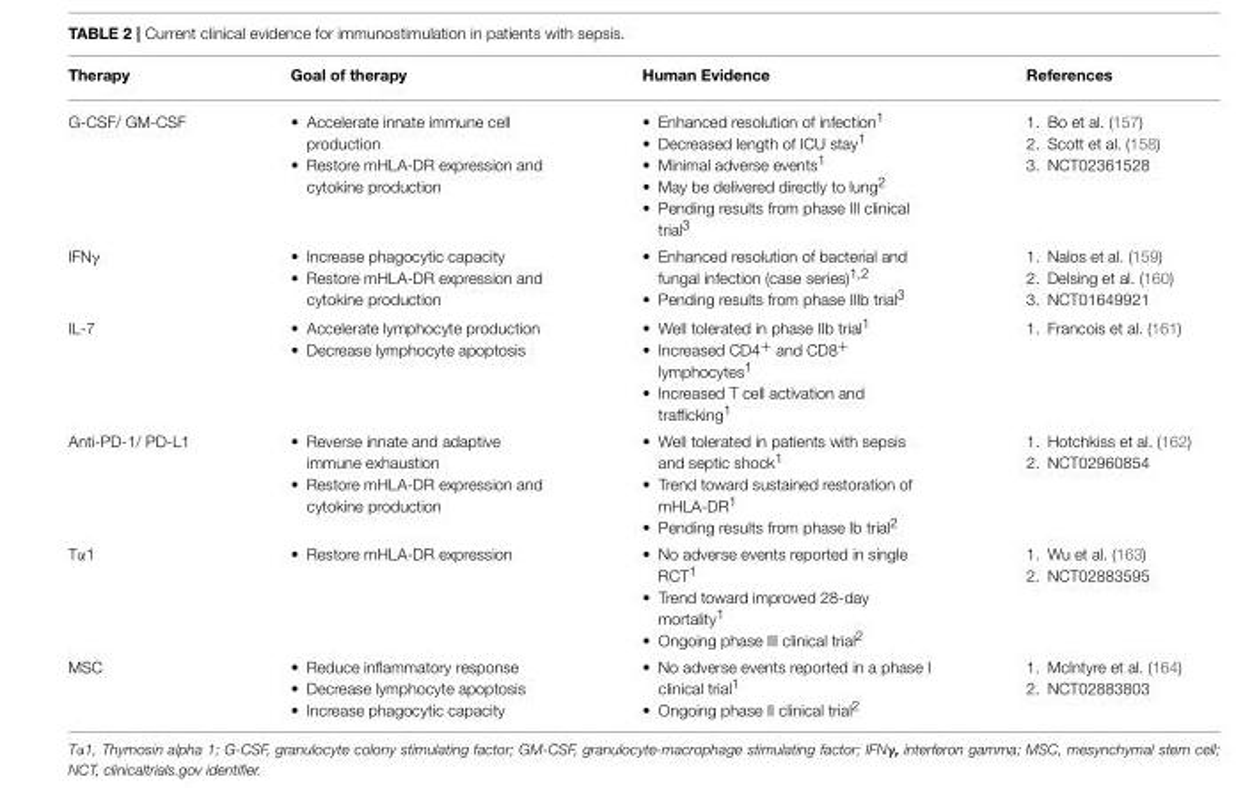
<table><thead><tr><td>Therapy</td><td>Goal of therapy</td><td>Human Evidence</td><td>References</td></tr></thead><tbody><tr><td>G-CSF/ GM-CSF</td><td>• Accelerate innate immune cell production • Restore mHLA-DR expression and cytokine production</td><td>• Enhanced resolution of infection1 • Decreased length of ICU stay1 • Minimal adverse events1 • May be delivered directly to lung2 • Pending results from phase III clinical trial3</td><td>1. Bo et al. (157) 2. Scott et al. (158) 3. NCT02361528</td></tr><tr><td>IFNγ</td><td>• Increase phagocytic capacity • Restore mHLA-DR expression and cytokine production</td><td>• Enhanced resolution of bacterial and fungal infection (case series)1,2 • Pending results from phase IIIb trial3</td><td>1. Nalos et al. (159) 2. Delsing et al. (160) 3. NCT01649921</td></tr><tr><td>IL-7</td><td>• Accelerate lymphocyte production • Decrease lymphocyte apoptosis</td><td>• Well tolerated in phase IIb trial1 • Increased CD4+ and CD8+ lymphocytes1 • Increased T cell activation and trafficking1</td><td>1. Francois et al. (161)</td></tr><tr><td>Anti-PD-1/ PD-L1</td><td>• Reverse innate and adaptive immune exhaustion • Restore mHLA-DR expression and cytokine production</td><td>• Well tolerated in patients with sepsis and septic shock1 • Trend toward sustained restoration of mHLA-DR1 • Pending results from phase Ib trial2</td><td>1. Hotchkiss et al. (162) 2. NCT02960854</td></tr><tr><td>Tα1</td><td>• Restore mHLA-DR expression</td><td>• No adverse events reported in single RCT1 • Trend toward improved 28-day mortality1 • Ongoing phase III clinical trial2</td><td>1. Wu et al. (163) 2. NCT02883595</td></tr><tr><td>MSC</td><td>• Reduce inflammatory response • Decrease lymphocyte apoptosis • Increase phagocytic capacity</td><td>• No adverse events reported in a phase I clinical trial1 • Ongoing phase II clinical trial2</td><td>1. McIntyre et al. (164) 2. NCT02883803</td></tr></tbody></table>